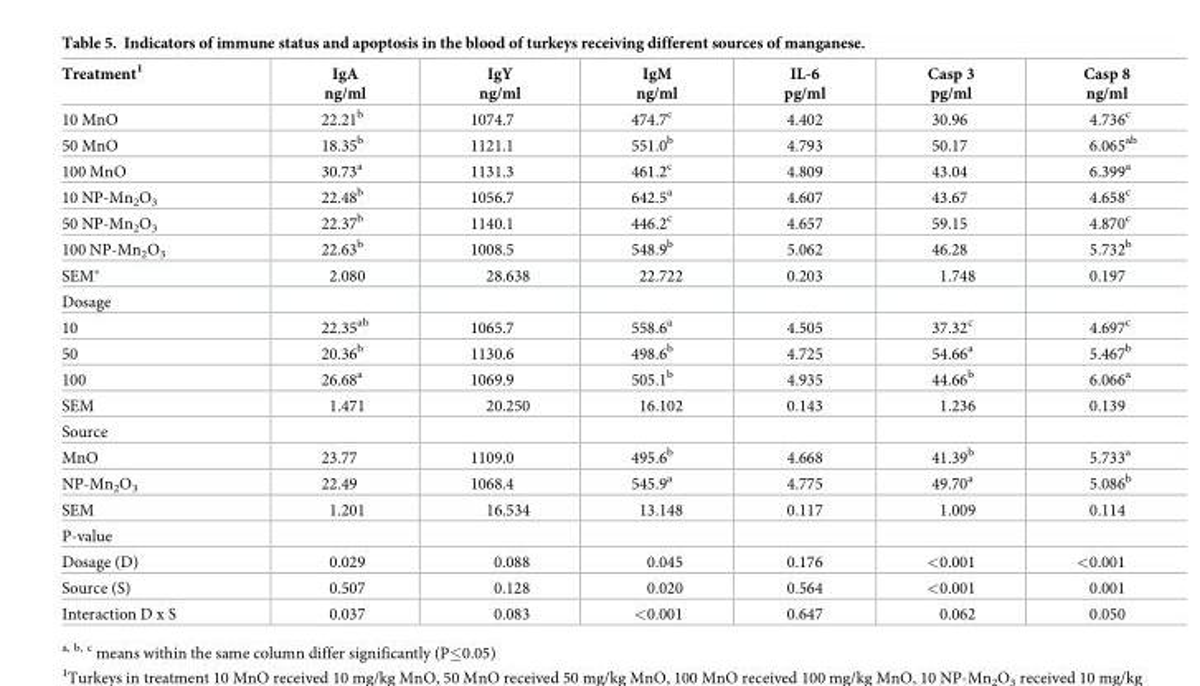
<table><thead><tr><td>Treatment<sup>1</sup></td><td>IgA ng/ml</td><td>IgY ng/ml</td><td>IgM ng/ml</td><td>IL-6 pg/ml</td><td>Casp 3 pg/ml</td><td>Casp 8 ng/ml</td></tr></thead><tbody><tr><td>10 MnO</td><td>22.21<sup>b</sup></td><td>1074.7</td><td>474.7<sup>c</sup></td><td>4.402</td><td>30.96</td><td>4.736<sup>c</sup></td></tr><tr><td>50 MnO</td><td>18.35<sup>b</sup></td><td>1121.1</td><td>551.0<sup>b</sup></td><td>4.793</td><td>50.17</td><td>6.065<sup>ab</sup></td></tr><tr><td>100 MnO</td><td>30.73<sup>a</sup></td><td>1131.3</td><td>461.2<sup>c</sup></td><td>4.809</td><td>43.04</td><td>6.399<sup>a</sup></td></tr><tr><td>10 NP-Mn<sub>2</sub>O<sub>3</sub></td><td>22.48<sup>b</sup></td><td>1056.7</td><td>642.5<sup>a</sup></td><td>4.607</td><td>43.67</td><td>4.658<sup>c</sup></td></tr><tr><td>50 NP-Mn<sub>2</sub>O<sub>3</sub></td><td>22.37<sup>b</sup></td><td>1140.1</td><td>446.2<sup>c</sup></td><td>4.657</td><td>59.15</td><td>4.870<sup>c</sup></td></tr><tr><td>100 NP-Mn<sub>2</sub>O<sub>3</sub></td><td>22.63<sup>b</sup></td><td>1008.5</td><td>548.9<sup>b</sup></td><td>5.062</td><td>46.28</td><td>5.732<sup>b</sup></td></tr><tr><td>SEM*</td><td>2.080</td><td>28.638</td><td>22.722</td><td>0.203</td><td>1.748</td><td>0.197</td></tr><tr><td colspan="7">Dosage</td></tr><tr><td>10</td><td>22.35<sup>ab</sup></td><td>1065.7</td><td>558.6<sup>a</sup></td><td>4.505</td><td>37.32<sup>c</sup></td><td>4.697<sup>c</sup></td></tr><tr><td>50</td><td>20.36<sup>b</sup></td><td>1130.6</td><td>498.6<sup>b</sup></td><td>4.725</td><td>54.66<sup>a</sup></td><td>5.467<sup>b</sup></td></tr><tr><td>100</td><td>26.68<sup>a</sup></td><td>1069.9</td><td>505.1<sup>b</sup></td><td>4.935</td><td>44.66<sup>b</sup></td><td>6.066<sup>a</sup></td></tr><tr><td>SEM</td><td>1.471</td><td>20.250</td><td>16.102</td><td>0.143</td><td>1.236</td><td>0.139</td></tr><tr><td colspan="7">Source</td></tr><tr><td>MnO</td><td>23.77</td><td>1109.0</td><td>495.6<sup>b</sup></td><td>4.668</td><td>41.39<sup>b</sup></td><td>5.733<sup>a</sup></td></tr><tr><td>NP-Mn<sub>2</sub>O<sub>3</sub></td><td>22.49</td><td>1068.4</td><td>545.9<sup>a</sup></td><td>4.775</td><td>49.70<sup>a</sup></td><td>5.086<sup>b</sup></td></tr><tr><td>SEM</td><td>1.201</td><td>16.534</td><td>13.148</td><td>0.117</td><td>1.009</td><td>0.114</td></tr><tr><td colspan="7">P-value</td></tr><tr><td>Dosage (D)</td><td>0.029</td><td>0.088</td><td>0.045</td><td>0.176</td><td>&lt;0.001</td><td>&lt;0.001</td></tr><tr><td>Source (S)</td><td>0.507</td><td>0.128</td><td>0.020</td><td>0.564</td><td>&lt;0.001</td><td>0.001</td></tr><tr><td>Interaction D x S</td><td>0.037</td><td>0.083</td><td>&lt;0.001</td><td>0.647</td><td>0.062</td><td>0.050</td></tr></tbody></table>